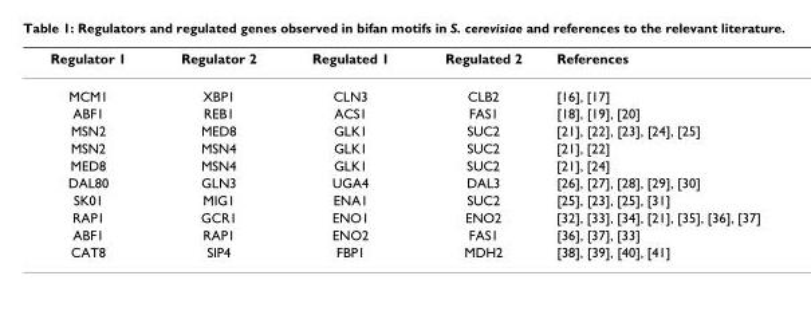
<table><thead><tr><td>Regulator 1</td><td>Regulator 2</td><td>Regulated 1</td><td>Regulated 2</td><td>References</td></tr></thead><tbody><tr><td>MCM1</td><td>XBP1</td><td>CLN3</td><td>CLB2</td><td>[16], [17]</td></tr><tr><td>ABF1</td><td>REB1</td><td>ACS1</td><td>FAS1</td><td>[18], [19], [20]</td></tr><tr><td>MSN2</td><td>MED8</td><td>GLK1</td><td>SUC2</td><td>[21], [22], [23], [24], [25]</td></tr><tr><td>MSN2</td><td>MSN4</td><td>GLK1</td><td>SUC2</td><td>[21], [22]</td></tr><tr><td>MED8</td><td>MSN4</td><td>GLK1</td><td>SUC2</td><td>[21], [24]</td></tr><tr><td>DAL80</td><td>GLN3</td><td>UGA4</td><td>DAL3</td><td>[26], [27], [28], [29], [30]</td></tr><tr><td>SK01</td><td>MIG1</td><td>ENA1</td><td>SUC2</td><td>[25], [23], [25], [31]</td></tr><tr><td>RAP1</td><td>GCR1</td><td>ENO1</td><td>ENO2</td><td>[32], [33], [34], [21], [35], [36], [37]</td></tr><tr><td>ABF1</td><td>RAP1</td><td>ENO2</td><td>FAS1</td><td>[36], [37], [33]</td></tr><tr><td>CAT8</td><td>SIP4</td><td>FBP1</td><td>MDH2</td><td>[38], [39], [40], [41]</td></tr></tbody></table>